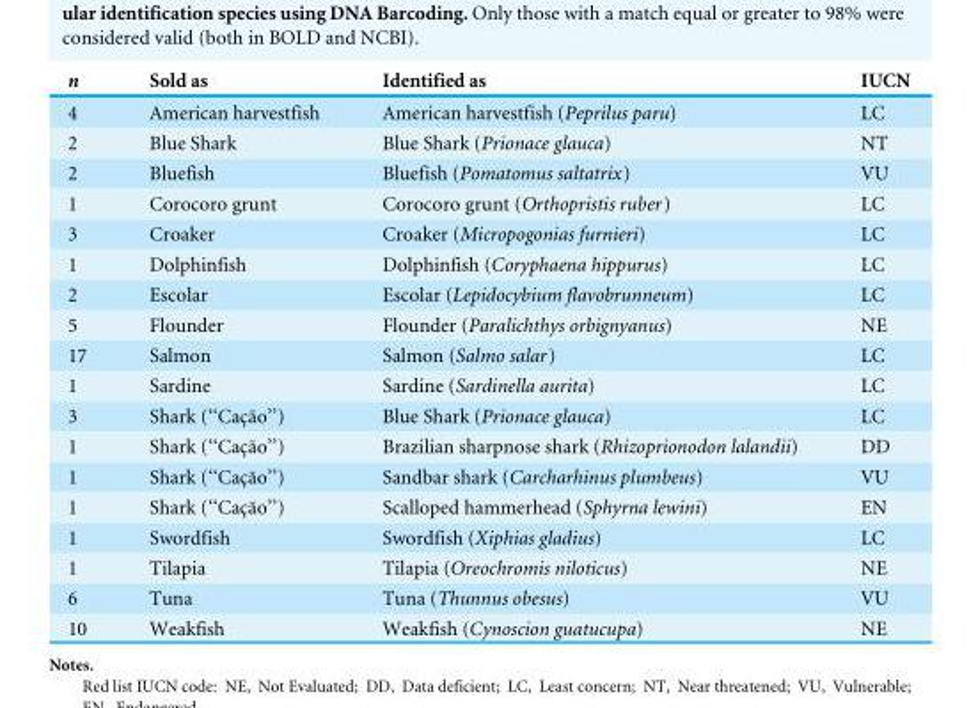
<table><thead><tr><td>n</td><td>Sold as</td><td>Identified as</td><td>IUCN</td></tr></thead><tbody><tr><td>4</td><td>American harvestfish</td><td>American harvestfish (Peprilus paru)</td><td>LC</td></tr><tr><td>2</td><td>Blue Shark</td><td>Blue Shark (Prionace glauca)</td><td>NT</td></tr><tr><td>2</td><td>Bluefish</td><td>Bluefish (Pomatomus saltatrix)</td><td>VU</td></tr><tr><td>1</td><td>Corocoro grunt</td><td>Corocoro grunt (Orthopristis ruber)</td><td>LC</td></tr><tr><td>3</td><td>Croaker</td><td>Croaker (Micropogonias furnieri)</td><td>LC</td></tr><tr><td>1</td><td>Dolphinfish</td><td>Dolphinfish (Coryphaena hippurus)</td><td>LC</td></tr><tr><td>2</td><td>Escolar</td><td>Escolar (Lepidocybium flavobrunneum)</td><td>LC</td></tr><tr><td>5</td><td>Flounder</td><td>Flounder (Paralichthys orbignyanus)</td><td>NE</td></tr><tr><td>17</td><td>Salmon</td><td>Salmon (Salmo salar)</td><td>LC</td></tr><tr><td>1</td><td>Sardine</td><td>Sardine (Sardinella aurita)</td><td>LC</td></tr><tr><td>3</td><td>Shark (‘‘Ca¸cão’’)</td><td>Blue Shark (Prionace glauca)</td><td>LC</td></tr><tr><td>1</td><td>Shark (‘‘Ca¸cão’’)</td><td>Brazilian sharpnose shark (Rhizoprionodon lalandii)</td><td>DD</td></tr><tr><td>1</td><td>Shark (‘‘Ca¸cão’’)</td><td>Sandbar shark (Carcharhinus plumbeus)</td><td>VU</td></tr><tr><td>1</td><td>Shark (‘‘Ca¸cão’’)</td><td>Scalloped hammerhead (Sphyrna lewini)</td><td>EN</td></tr><tr><td>1</td><td>Swordfish</td><td>Swordfish (Xiphias gladius)</td><td>LC</td></tr><tr><td>1</td><td>Tilapia</td><td>Tilapia (Oreochromis niloticus)</td><td>NE</td></tr><tr><td>6</td><td>Tuna</td><td>Tuna (Thunnus obesus)</td><td>VU</td></tr><tr><td>10</td><td>Weakfish</td><td>Weakfish (Cynoscion guatucupa)</td><td>NE</td></tr></tbody></table>